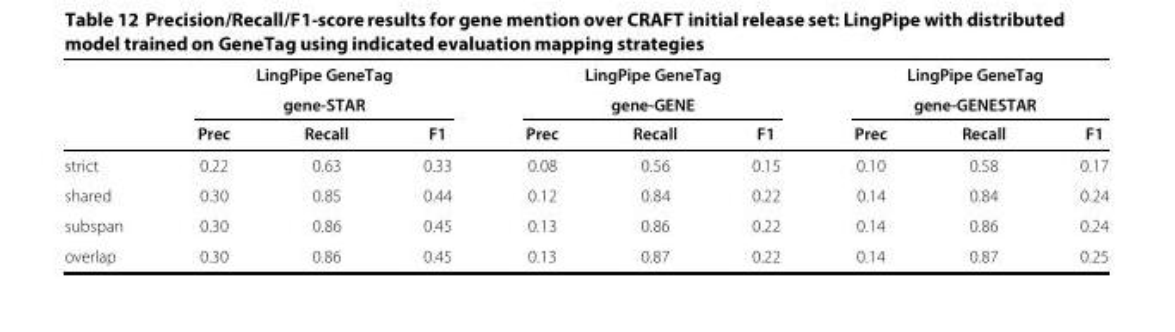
<table><thead><tr><td rowspan="2"></td><td colspan="3">LingPipe GeneTag gene-STAR</td><td colspan="3">LingPipe GeneTag gene-GENE</td><td colspan="3">LingPipe GeneTag gene-GENESTAR</td></tr><tr><td>Prec</td><td>Recall</td><td>F1</td><td>Prec</td><td>Recall</td><td>F1</td><td>Prec</td><td>Recall</td><td>F1</td></tr></thead><tbody><tr><td>strict</td><td>0.22</td><td>0.63</td><td>0.33</td><td>0.08</td><td>0.56</td><td>0.15</td><td>0.10</td><td>0.58</td><td>0.17</td></tr><tr><td>shared</td><td>0.30</td><td>0.85</td><td>0.44</td><td>0.12</td><td>0.84</td><td>0.22</td><td>0.14</td><td>0.84</td><td>0.24</td></tr><tr><td>subspan</td><td>0.30</td><td>0.86</td><td>0.45</td><td>0.13</td><td>0.86</td><td>0.22</td><td>0.14</td><td>0.86</td><td>0.24</td></tr><tr><td>overlap</td><td>0.30</td><td>0.86</td><td>0.45</td><td>0.13</td><td>0.87</td><td>0.22</td><td>0.14</td><td>0.87</td><td>0.25</td></tr></tbody></table>